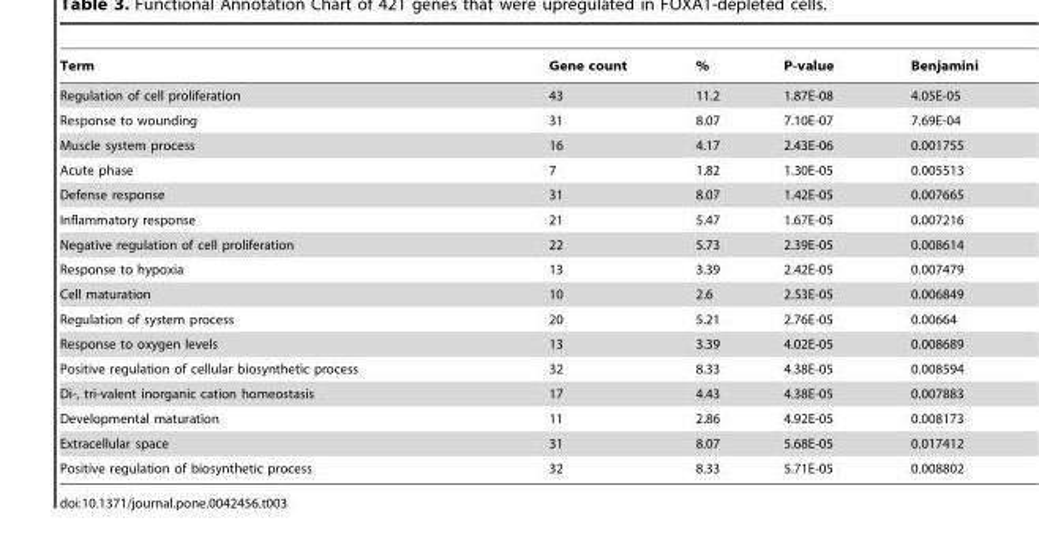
<table><thead><tr><td>Term</td><td>Gene count</td><td>%</td><td>P-value</td><td>Benjamini</td></tr></thead><tbody><tr><td>Regulation of cell proliferation</td><td>43</td><td>11.2</td><td>1.87E-08</td><td>4.05E-05</td></tr><tr><td>Response to wounding</td><td>31</td><td>8.07</td><td>7.10E-07</td><td>7.69E-04</td></tr><tr><td>Muscle system process</td><td>16</td><td>4.17</td><td>2.43E-06</td><td>0.001755</td></tr><tr><td>Acute phase</td><td>7</td><td>1.82</td><td>1.30E-05</td><td>0.005513</td></tr><tr><td>Defense response</td><td>31</td><td>8.07</td><td>1.42E-05</td><td>0.007665</td></tr><tr><td>Inflammatory response</td><td>21</td><td>5.47</td><td>1.67E-05</td><td>0.007216</td></tr><tr><td>Negative regulation of cell proliferation</td><td>22</td><td>5.73</td><td>2.39E-05</td><td>0.008614</td></tr><tr><td>Response to hypoxia</td><td>13</td><td>3.39</td><td>2.42E-05</td><td>0.007479</td></tr><tr><td>Cell maturation</td><td>10</td><td>2.6</td><td>2.53E-05</td><td>0.006849</td></tr><tr><td>Regulation of system process</td><td>20</td><td>5.21</td><td>2.76E-05</td><td>0.00664</td></tr><tr><td>Response to oxygen levels</td><td>13</td><td>3.39</td><td>4.02E-05</td><td>0.008689</td></tr><tr><td>Positive regulation of cellular biosynthetic process</td><td>32</td><td>8.33</td><td>4.38E-05</td><td>0.008594</td></tr><tr><td>Di-, tri-valent inorganic cation homeostasis</td><td>17</td><td>4.43</td><td>4.38E-05</td><td>0.007883</td></tr><tr><td>Developmental maturation</td><td>11</td><td>2.86</td><td>4.92E-05</td><td>0.008173</td></tr><tr><td>Extracellular space</td><td>31</td><td>8.07</td><td>5.68E-05</td><td>0.017412</td></tr><tr><td>Positive regulation of biosynthetic process</td><td>32</td><td>8.33</td><td>5.71E-05</td><td>0.008802</td></tr></tbody></table>